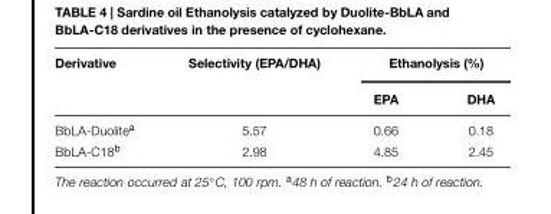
<table><thead><tr><td rowspan="2">Derivative</td><td rowspan="2">Selectivity (EPA/DHA)</td><td colspan="2">Ethanolysis (%)</td></tr><tr><td>EPA</td><td>DHA</td></tr></thead><tbody><tr><td>BbLA-Duolite<sup>a</sup></td><td>5.57</td><td>0.66</td><td>0.18</td></tr><tr><td>BbLA-C18<sup>b</sup></td><td>2.98</td><td>4.85</td><td>2.45</td></tr></tbody></table>